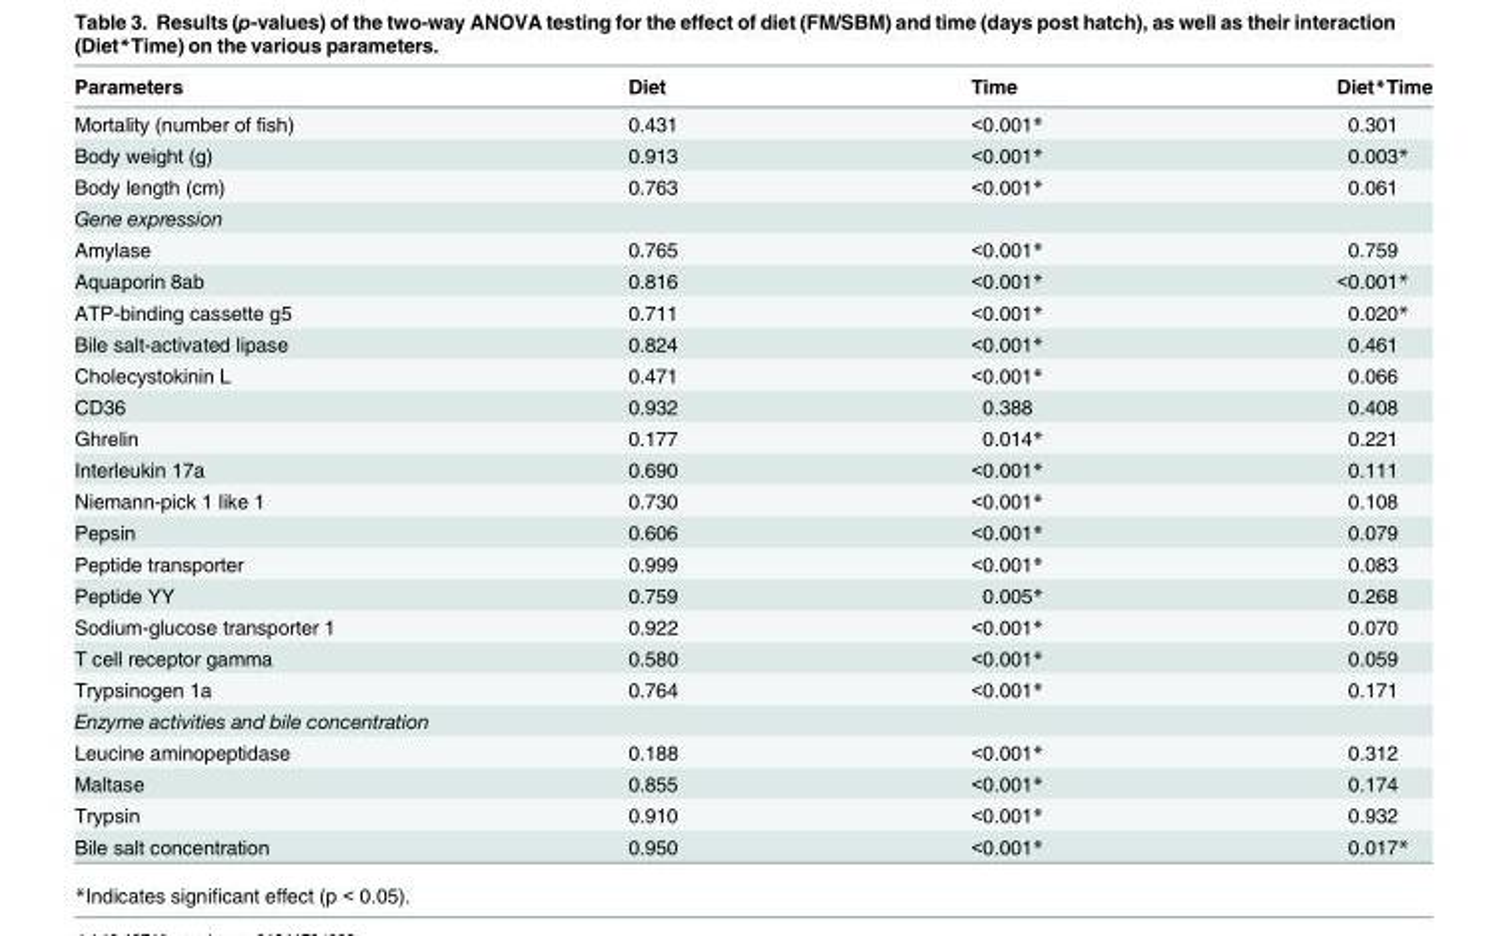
<table><thead><tr><td>Parameters</td><td>Diet</td><td>Time</td><td>Diet*Time</td></tr></thead><tbody><tr><td>Mortality (number of fish)</td><td>0.431</td><td>&lt;0.001*</td><td>0.301</td></tr><tr><td>Body weight (g)</td><td>0.913</td><td>&lt;0.001*</td><td>0.003*</td></tr><tr><td>Body length (cm)</td><td>0.763</td><td>&lt;0.001*</td><td>0.061</td></tr><tr><td colspan="4">Gene expression</td></tr><tr><td>Amylase</td><td>0.765</td><td>&lt;0.001*</td><td>0.759</td></tr><tr><td>Aquaporin 8ab</td><td>0.816</td><td>&lt;0.001*</td><td>&lt;0.001*</td></tr><tr><td>ATP-binding cassette g5</td><td>0.711</td><td>&lt;0.001*</td><td>0.020*</td></tr><tr><td>Bile salt-activated lipase</td><td>0.824</td><td>&lt;0.001*</td><td>0.461</td></tr><tr><td>Cholecystokinin L</td><td>0.471</td><td>&lt;0.001*</td><td>0.066</td></tr><tr><td>CD36</td><td>0.932</td><td>0.388</td><td>0.408</td></tr><tr><td>Ghrelin</td><td>0.177</td><td>0.014*</td><td>0.221</td></tr><tr><td>Interleukin 17a</td><td>0.690</td><td>&lt;0.001*</td><td>0.111</td></tr><tr><td>Niemann-pick 1 like 1</td><td>0.730</td><td>&lt;0.001*</td><td>0.108</td></tr><tr><td>Pepsin</td><td>0.606</td><td>&lt;0.001*</td><td>0.079</td></tr><tr><td>Peptide transporter</td><td>0.999</td><td>&lt;0.001*</td><td>0.083</td></tr><tr><td>Peptide YY</td><td>0.759</td><td>0.005*</td><td>0.268</td></tr><tr><td>Sodium-glucose transporter 1</td><td>0.922</td><td>&lt;0.001*</td><td>0.070</td></tr><tr><td>T cell receptor gamma</td><td>0.580</td><td>&lt;0.001*</td><td>0.059</td></tr><tr><td>Trypsinogen 1a</td><td>0.764</td><td>&lt;0.001*</td><td>0.171</td></tr><tr><td colspan="4">Enzyme activities and bile concentration</td></tr><tr><td>Leucine aminopeptidase</td><td>0.188</td><td>&lt;0.001*</td><td>0.312</td></tr><tr><td>Maltase</td><td>0.855</td><td>&lt;0.001*</td><td>0.174</td></tr><tr><td>Trypsin</td><td>0.910</td><td>&lt;0.001*</td><td>0.932</td></tr><tr><td>Bile salt concentration</td><td>0.950</td><td>&lt;0.001*</td><td>0.017*</td></tr></tbody></table>